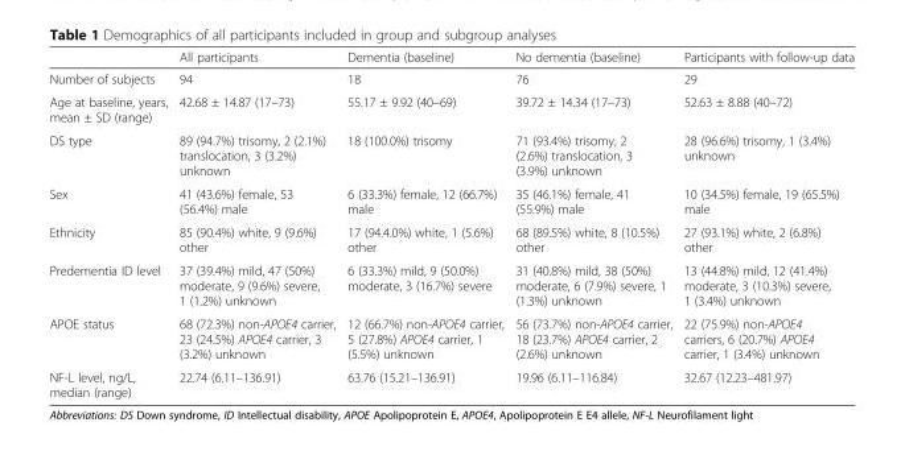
<table><thead><tr><td></td><td>All participants</td><td>Dementia (baseline)</td><td>No dementia (baseline)</td><td>Participants with follow-up data</td></tr></thead><tbody><tr><td>Number of subjects</td><td>94</td><td>18</td><td>76</td><td>29</td></tr><tr><td>Age at baseline, years, mean ± SD (range)</td><td>42.68 ± 14.87 (17–73)</td><td>55.17 ± 9.92 (40–69)</td><td>39.72 ± 14.34 (17–73)</td><td>52.63 ± 8.88 (40–72)</td></tr><tr><td>DS type</td><td>89 (94.7%) trisomy, 2 (2.1%) translocation, 3 (3.2%) unknown</td><td>18 (100.0%) trisomy</td><td>71 (93.4%) trisomy, 2 (2.6%) translocation, 3 (3.9%) unknown</td><td>28 (96.6%) trisomy, 1 (3.4%) unknown</td></tr><tr><td>Sex</td><td>41 (43.6%) female, 53 (56.4%) male</td><td>6 (33.3%) female, 12 (66.7%) male</td><td>35 (46.1%) female, 41 (55.9%) male</td><td>10 (34.5%) female, 19 (65.5%) male</td></tr><tr><td>Ethnicity</td><td>85 (90.4%) white, 9 (9.6%) other</td><td>17 (94.4.0%) white, 1 (5.6%) other</td><td>68 (89.5%) white, 8 (10.5%) other</td><td>27 (93.1%) white, 2 (6.8%) other</td></tr><tr><td>Predementia ID level</td><td>37 (39.4%) mild, 47 (50%) moderate, 9 (9.6%) severe, 1 (1.2%) unknown</td><td>6 (33.3%) mild, 9 (50.0%) moderate, 3 (16.7%) severe</td><td>31 (40.8%) mild, 38 (50%) moderate, 6 (7.9%) severe, 1 (1.3%) unknown</td><td>13 (44.8%) mild, 12 (41.4%) moderate, 3 (10.3%) severe, 1 (3.4%) unknown</td></tr><tr><td>APOE status</td><td>68 (72.3%) non-APOE4 carrier, 23 (24.5%) APOE4 carrier, 3 (3.2%) unknown</td><td>12 (66.7%) non-APOE4 carrier, 5 (27.8%) APOE4 carrier, 1 (5.5%) unknown</td><td>56 (73.7%) non-APOE4 carrier, 18 (23.7%) APOE4 carrier, 2 (2.6%) unknown</td><td>22 (75.9%) non-APOE4 carriers, 6 (20.7%) APOE4 carrier, 1 (3.4%) unknown</td></tr><tr><td>NF-L level, ng/L, median (range)</td><td>22.74 (6.11–136.91)</td><td>63.76 (15.21–136.91)</td><td>19.96 (6.11–116.84)</td><td>32.67 (12.23–481.97)</td></tr></tbody></table>